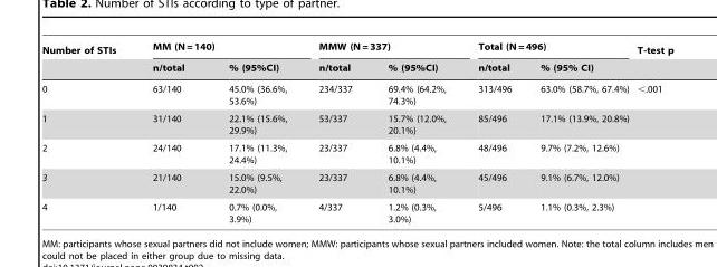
<table><thead><tr><td rowspan="2">Number of STIs</td><td colspan="2">MM (N = 140)</td><td colspan="2">MMW (N = 337)</td><td colspan="2">Total (N = 496)</td><td rowspan="2">T-test p</td></tr><tr><td>n/total</td><td>% (95%CI)</td><td>n/total</td><td>% (95%CI)</td><td>n/total</td><td>% (95% CI)</td></tr></thead><tbody><tr><td>0</td><td>63/140</td><td>45.0% (36.6%, 53.6%)</td><td>234/337</td><td>69.4% (64.2%, 74.3%)</td><td>313/496</td><td>63.0% (58.7%, 67.4%)</td><td>&lt;.001</td></tr><tr><td>1</td><td>31/140</td><td>22.1% (15.6%, 29.9%)</td><td>53/337</td><td>15.7% (12.0%, 20.1%)</td><td>85/496</td><td>17.1% (13.9%, 20.8%)</td><td></td></tr><tr><td>2</td><td>24/140</td><td>17.1% (11.3%, 24.4%)</td><td>23/337</td><td>6.8% (4.4%, 10.1%)</td><td>48/496</td><td>9.7% (7.2%, 12.6%)</td><td></td></tr><tr><td>3</td><td>21/140</td><td>15.0% (9.5%, 22.0%)</td><td>23/337</td><td>6.8% (4.4%, 10.1%)</td><td>45/496</td><td>9.1% (6.7%, 12.0%)</td><td></td></tr><tr><td>4</td><td>1/140</td><td>0.7% (0.0%, 3.9%)</td><td>4/337</td><td>1.2% (0.3%, 3.0%)</td><td>5/496</td><td>1.1% (0.3%, 2.3%)</td><td></td></tr></tbody></table>